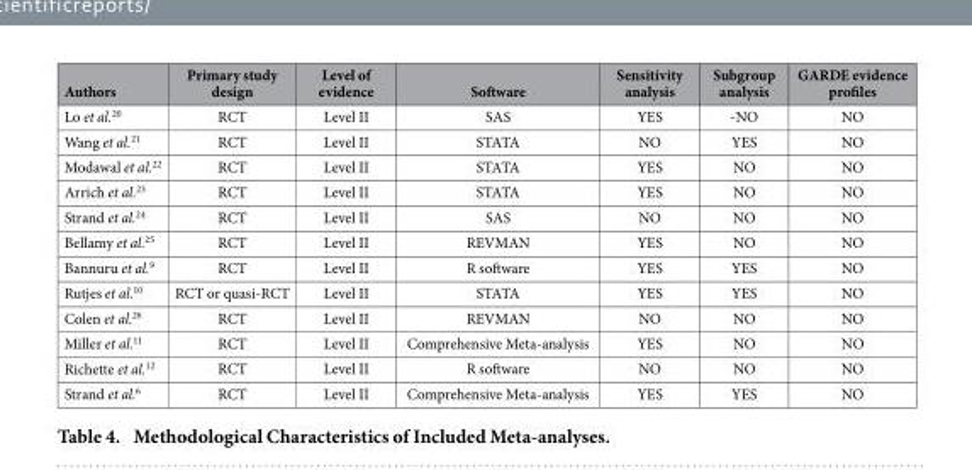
<table><thead><tr><td>Authors</td><td>Primary study design</td><td>Level of evidence</td><td>Software</td><td>Sensitivity analysis</td><td>Subgroup analysis</td><td>GARDE evidence profiles</td></tr></thead><tbody><tr><td>Lo et al.<sup>20</sup></td><td>RCT</td><td>Level II</td><td>SAS</td><td>YES</td><td>-NO</td><td>NO</td></tr><tr><td>Wang et al.<sup>21</sup></td><td>RCT</td><td>Level II</td><td>STATA</td><td>NO</td><td>YES</td><td>NO</td></tr><tr><td>Modawal et al.<sup>22</sup></td><td>RCT</td><td>Level II</td><td>STATA</td><td>YES</td><td>NO</td><td>NO</td></tr><tr><td>Arrich et al.<sup>23</sup></td><td>RCT</td><td>Level II</td><td>STATA</td><td>YES</td><td>NO</td><td>NO</td></tr><tr><td>Strand et al.<sup>24</sup></td><td>RCT</td><td>Level II</td><td>SAS</td><td>NO</td><td>NO</td><td>NO</td></tr><tr><td>Bellamy et al.<sup>25</sup></td><td>RCT</td><td>Level II</td><td>REVMAN</td><td>YES</td><td>NO</td><td>NO</td></tr><tr><td>Bannuru et al.<sup>9</sup></td><td>RCT</td><td>Level II</td><td>R software</td><td>YES</td><td>YES</td><td>NO</td></tr><tr><td>Rutjes et al.<sup>10</sup></td><td>RCT or quasi-RCT</td><td>Level II</td><td>STATA</td><td>YES</td><td>YES</td><td>NO</td></tr><tr><td>Colen et al.<sup>26</sup></td><td>RCT</td><td>Level II</td><td>REVMAN</td><td>NO</td><td>NO</td><td>NO</td></tr><tr><td>Miller et al.<sup>11</sup></td><td>RCT</td><td>Level II</td><td>Comprehensive Meta-analysis</td><td>YES</td><td>NO</td><td>NO</td></tr><tr><td>Richette et al.<sup>12</sup></td><td>RCT</td><td>Level II</td><td>R software</td><td>NO</td><td>NO</td><td>NO</td></tr><tr><td>Strand et al.<sup>6</sup></td><td>RCT</td><td>Level II</td><td>Comprehensive Meta-analysis</td><td>YES</td><td>YES</td><td>NO</td></tr></tbody></table>